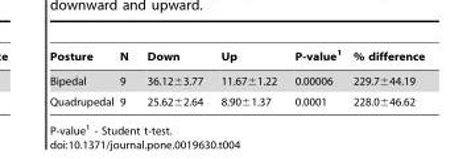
<table><thead><tr><td>Posture</td><td>N</td><td>Down</td><td>Up</td><td>P-value<sup>1</sup></td><td>% difference</td></tr></thead><tbody><tr><td>Bipedal</td><td>9</td><td>36.12±3.77</td><td>11.67±1.22</td><td>0.00006</td><td>229.7±44.19</td></tr><tr><td>Quadrupedal</td><td>9</td><td>25.62±2.64</td><td>8.90±1.37</td><td>0.0001</td><td>228.0±46.62</td></tr></tbody></table>